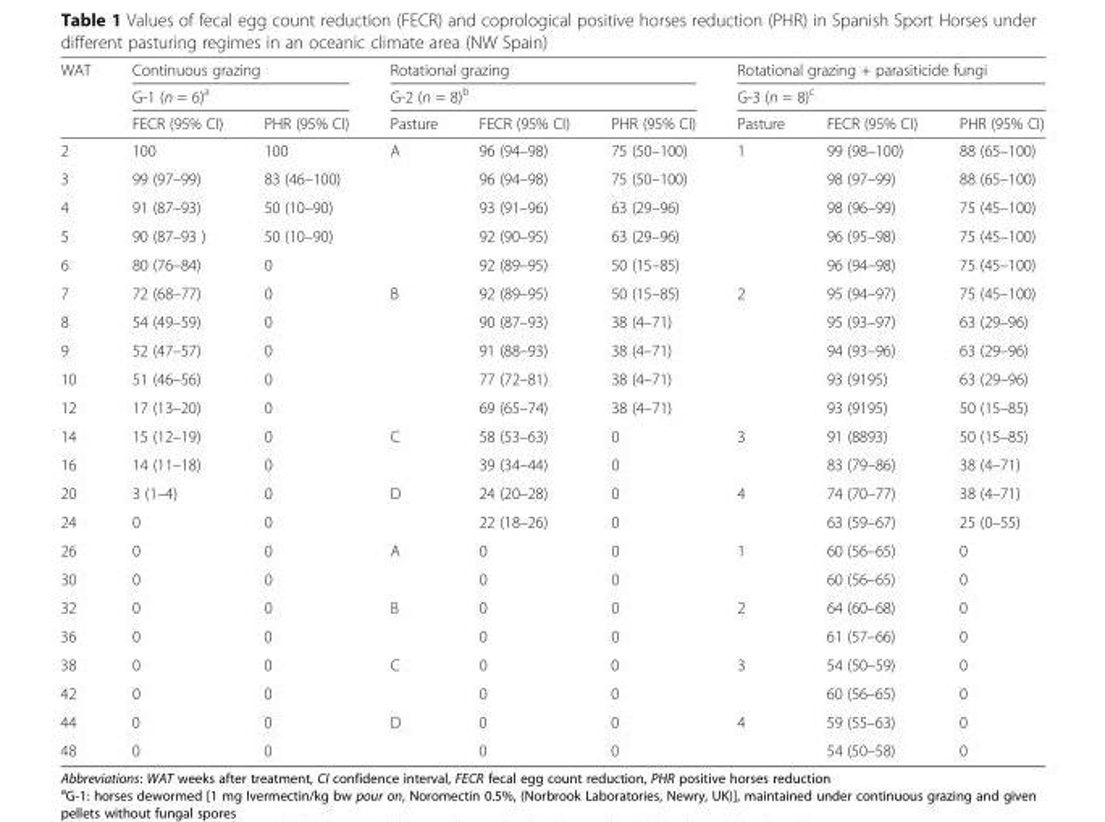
<table><thead><tr><td rowspan="3">WAT</td><td rowspan="2" colspan="2">Continuous grazing G-1 (n = 6)<sup>a</sup></td><td rowspan="2" colspan="3">Rotational grazing G-2 (n = 8)<sup>b</sup></td><td rowspan="2" colspan="3">Rotational grazing + parasiticide fungi G-3 (n = 8)<sup>c</sup></td></tr><tr></tr><tr><td>FECR (95% CI)</td><td>PHR (95% CI)</td><td>Pasture</td><td>FECR (95% CI)</td><td>PHR (95% CI)</td><td>Pasture</td><td>FECR (95% CI)</td><td>PHR (95% CI)</td></tr></thead><tbody><tr><td>2</td><td>100</td><td>100</td><td rowspan="5">A</td><td>96 (94–98)</td><td>75 (50–100)</td><td rowspan="5">1</td><td>99 (98–100)</td><td>88 (65–100)</td></tr><tr><td>3</td><td>99 (97–99)</td><td>83 (46–100)</td><td>96 (94–98)</td><td>75 (50–100)</td><td>98 (97–99)</td><td>88 (65–100)</td></tr><tr><td>4</td><td>91 (87–93)</td><td>50 (10–90)</td><td>93 (91–96)</td><td>63 (29–96)</td><td>98 (96–99)</td><td>75 (45–100)</td></tr><tr><td>5</td><td>90 (87–93 )</td><td>50 (10–90)</td><td>92 (90–95)</td><td>63 (29–96)</td><td>96 (95–98)</td><td>75 (45–100)</td></tr><tr><td>6</td><td>80 (76–84)</td><td>0</td><td>92 (89–95)</td><td>50 (15–85)</td><td>96 (94–98)</td><td>75 (45–100)</td></tr><tr><td>7</td><td>72 (68–77)</td><td>0</td><td rowspan="5">B</td><td>92 (89–95)</td><td>50 (15–85)</td><td rowspan="5">2</td><td>95 (94–97)</td><td>75 (45–100)</td></tr><tr><td>8</td><td>54 (49–59)</td><td>0</td><td>90 (87–93)</td><td>38 (4–71)</td><td>95 (93–97)</td><td>63 (29–96)</td></tr><tr><td>9</td><td>52 (47–57)</td><td>0</td><td>91 (88–93)</td><td>38 (4–71)</td><td>94 (93–96)</td><td>63 (29–96)</td></tr><tr><td>10</td><td>51 (46–56)</td><td>0</td><td>77 (72–81)</td><td>38 (4–71)</td><td>93 (9195)</td><td>63 (29–96)</td></tr><tr><td>12</td><td>17 (13–20)</td><td>0</td><td>69 (65–74)</td><td>38 (4–71)</td><td>93 (9195)</td><td>50 (15–85)</td></tr><tr><td>14</td><td>15 (12–19)</td><td>0</td><td rowspan="2">C</td><td>58 (53–63)</td><td>0</td><td rowspan="2">3</td><td>91 (8893)</td><td>50 (15–85)</td></tr><tr><td>16</td><td>14 (11–18)</td><td>0</td><td>39 (34–44)</td><td>0</td><td>83 (79–86)</td><td>38 (4–71)</td></tr><tr><td>20</td><td>3 (1–4)</td><td>0</td><td rowspan="2">D</td><td>24 (20–28)</td><td>0</td><td rowspan="2">4</td><td>74 (70–77)</td><td>38 (4–71)</td></tr><tr><td>24</td><td>0</td><td>0</td><td>22 (18–26)</td><td>0</td><td>63 (59–67)</td><td>25 (0–55)</td></tr><tr><td>26</td><td>0</td><td>0</td><td rowspan="2">A</td><td>0</td><td>0</td><td rowspan="2">1</td><td>60 (56–65)</td><td>0</td></tr><tr><td>30</td><td>0</td><td>0</td><td>0</td><td>0</td><td>60 (56–65)</td><td>0</td></tr><tr><td>32</td><td>0</td><td>0</td><td rowspan="2">B</td><td>0</td><td>0</td><td rowspan="2">2</td><td>64 (60–68)</td><td>0</td></tr><tr><td>36</td><td>0</td><td>0</td><td>0</td><td>0</td><td>61 (57–66)</td><td>0</td></tr><tr><td>38</td><td>0</td><td>0</td><td rowspan="2">C</td><td>0</td><td>0</td><td rowspan="2">3</td><td>54 (50–59)</td><td>0</td></tr><tr><td>42</td><td>0</td><td>0</td><td>0</td><td>0</td><td>60 (56–65)</td><td>0</td></tr><tr><td>44</td><td>0</td><td>0</td><td rowspan="2">D</td><td>0</td><td>0</td><td rowspan="2">4</td><td>59 (55–63)</td><td>0</td></tr><tr><td>48</td><td>0</td><td>0</td><td>0</td><td>0</td><td>54 (50–58)</td><td>0</td></tr></tbody></table>